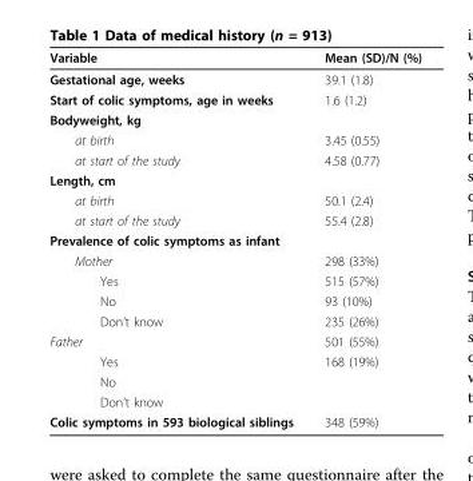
<table><thead><tr><td>Variable</td><td>Mean (SD)/N (%)</td></tr></thead><tbody><tr><td>Gestational age, weeks</td><td>39.1 (1.8)</td></tr><tr><td>Start of colic symptoms, age in weeks</td><td>1.6 (1.2)</td></tr><tr><td colspan="2">Bodyweight, kg</td></tr><tr><td>at birth</td><td>3.45 (0.55)</td></tr><tr><td>at start of the study</td><td>4.58 (0.77)</td></tr><tr><td colspan="2">Length, cm</td></tr><tr><td>at birth</td><td>50.1 (2.4)</td></tr><tr><td>at start of the study</td><td>55.4 (2.8)</td></tr><tr><td colspan="2">Prevalence of colic symptoms as infant</td></tr><tr><td>Mother</td><td>298 (33%)</td></tr><tr><td>Yes</td><td>515 (57%)</td></tr><tr><td>No</td><td>93 (10%)</td></tr><tr><td>Don’t know</td><td>235 (26%)</td></tr><tr><td>Father</td><td>501 (55%)</td></tr><tr><td>Yes</td><td>168 (19%)</td></tr><tr><td colspan="2">No</td></tr><tr><td colspan="2">Don’t know</td></tr><tr><td>Colic symptoms in 593 biological siblings</td><td>348 (59%)</td></tr></tbody></table>